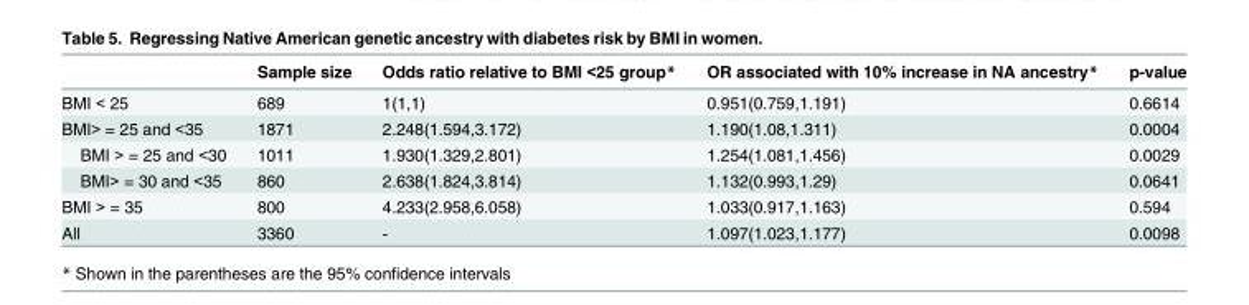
<table><thead><tr><td></td><td>Sample size</td><td>Odds ratio relative to BMI &lt;25 group*</td><td>OR associated with 10% increase in NA ancestry*</td><td>p-value</td></tr></thead><tbody><tr><td>BMI &lt; 25</td><td>689</td><td>1(1,1)</td><td>0.951(0.759,1.191)</td><td>0.6614</td></tr><tr><td>BMI&gt; = 25 and &lt;35</td><td>1871</td><td>2.248(1.594,3.172)</td><td>1.190(1.08,1.311)</td><td>0.0004</td></tr><tr><td>BMI &gt; = 25 and &lt;30</td><td>1011</td><td>1.930(1.329,2.801)</td><td>1.254(1.081,1.456)</td><td>0.0029</td></tr><tr><td>BMI&gt; = 30 and &lt;35</td><td>860</td><td>2.638(1.824,3.814)</td><td>1.132(0.993,1.29)</td><td>0.0641</td></tr><tr><td>BMI &gt; = 35</td><td>800</td><td>4.233(2.958,6.058)</td><td>1.033(0.917,1.163)</td><td>0.594</td></tr><tr><td>All</td><td>3360</td><td>-</td><td>1.097(1.023,1.177)</td><td>0.0098</td></tr></tbody></table>